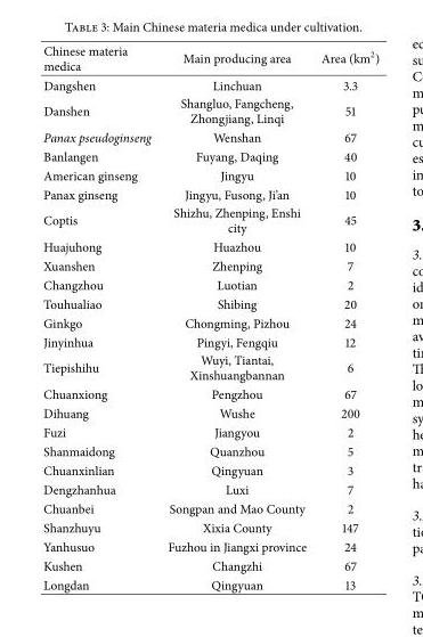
<table><thead><tr><td>Chinese materia medica</td><td>Main producing area</td><td>Area (km<sup>2</sup>)</td></tr></thead><tbody><tr><td>Dangshen</td><td>Linchuan</td><td>3.3</td></tr><tr><td>Danshen</td><td>Shangluo, Fangcheng, Zhongjiang, Linqi</td><td>51</td></tr><tr><td>Panax pseudoginseng</td><td>Wenshan</td><td>67</td></tr><tr><td>Banlangen</td><td>Fuyang, Daqing</td><td>40</td></tr><tr><td>American ginseng</td><td>Jingyu</td><td>10</td></tr><tr><td>Panax ginseng</td><td>Jingyu, Fusong, Ji’an</td><td>10</td></tr><tr><td>Coptis</td><td>Shizhu, Zhenping, Enshi city</td><td>45</td></tr><tr><td>Huajuhong</td><td>Huazhou</td><td>10</td></tr><tr><td>Xuanshen</td><td>Zhenping</td><td>7</td></tr><tr><td>Changzhou</td><td>Luotian</td><td>2</td></tr><tr><td>Touhualiao</td><td>Shibing</td><td>20</td></tr><tr><td>Ginkgo</td><td>Chongming, Pizhou</td><td>24</td></tr><tr><td>Jinyinhua</td><td>Pingyi, Fengqiu</td><td>12</td></tr><tr><td>Tiepishihu</td><td>Wuyi, Tiantai, Xinshuangbannan</td><td>6</td></tr><tr><td>Chuanxiong</td><td>Pengzhou</td><td>67</td></tr><tr><td>Dihuang</td><td>Wushe</td><td>200</td></tr><tr><td>Fuzi</td><td>Jiangyou</td><td>2</td></tr><tr><td>Shanmaidong</td><td>Quanzhou</td><td>5</td></tr><tr><td>Chuanxinlian</td><td>Qingyuan</td><td>3</td></tr><tr><td>Dengzhanhua</td><td>Luxi</td><td>7</td></tr><tr><td>Chuanbei</td><td>Songpan and Mao County</td><td>2</td></tr><tr><td>Shanzhuyu</td><td>Xixia County</td><td>147</td></tr><tr><td>Yanhusuo</td><td>Fuzhou in Jiangxi province</td><td>24</td></tr><tr><td>Kushen</td><td>Changzhi</td><td>67</td></tr><tr><td>Longdan</td><td>Qingyuan</td><td>13</td></tr></tbody></table>